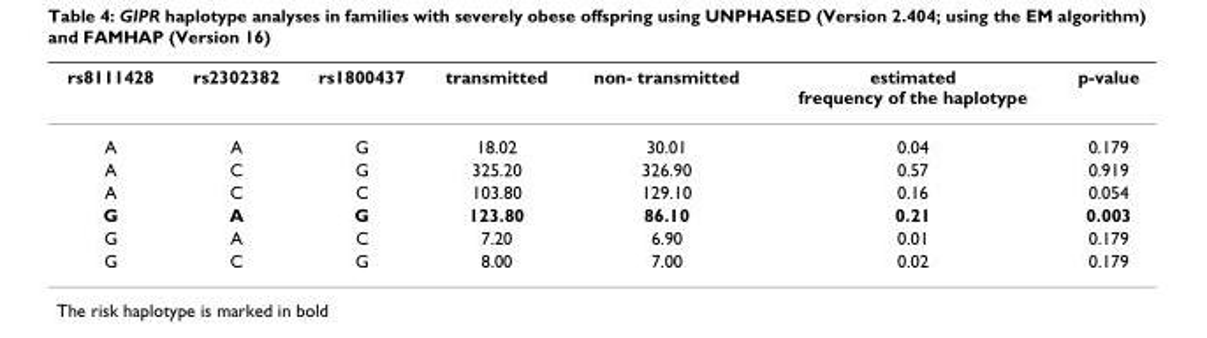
<table><thead><tr><td>rs8111428</td><td>rs2302382</td><td>rs1800437</td><td>transmitted</td><td>non- transmitted</td><td>estimated frequency of the haplotype</td><td>p-value</td></tr></thead><tbody><tr><td>A</td><td>A</td><td>G</td><td>18.02</td><td>30.01</td><td>0.04</td><td>0.179</td></tr><tr><td>A</td><td>C</td><td>G</td><td>325.20</td><td>326.90</td><td>0.57</td><td>0.919</td></tr><tr><td>A</td><td>C</td><td>C</td><td>103.80</td><td>129.10</td><td>0.16</td><td>0.054</td></tr><tr><td>G</td><td>A</td><td>G</td><td>123.80</td><td>86.10</td><td>0.21</td><td>0.003</td></tr><tr><td>G</td><td>A</td><td>C</td><td>7.20</td><td>6.90</td><td>0.01</td><td>0.179</td></tr><tr><td>G</td><td>C</td><td>G</td><td>8.00</td><td>7.00</td><td>0.02</td><td>0.179</td></tr></tbody></table>